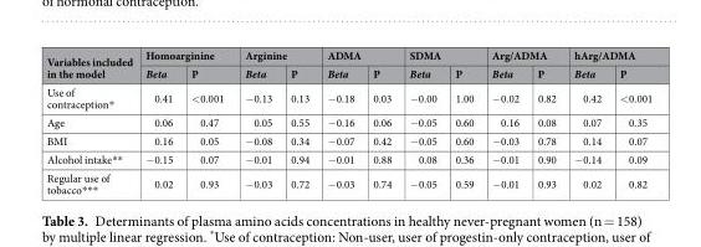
<table><thead><tr><td rowspan="2">Variables included in the model</td><td colspan="2">Homoarginine</td><td colspan="2">Arginine</td><td colspan="2">ADMA</td><td colspan="2">SDMA</td><td colspan="2">Arg/ADMA</td><td colspan="2">hArg/ADMA</td></tr><tr><td>Beta</td><td>P</td><td>Beta</td><td>P</td><td>Beta</td><td>P</td><td>Beta</td><td>P</td><td>Beta</td><td>P</td><td>Beta</td><td>P</td></tr></thead><tbody><tr><td>Use of contraception*</td><td>0.41</td><td>&lt;0.001</td><td>−0.13</td><td>0.13</td><td>−0.18</td><td>0.03</td><td>−0.00</td><td>1.00</td><td>−0.02</td><td>0.82</td><td>0.42</td><td>&lt;0.001</td></tr><tr><td>Age</td><td>0.06</td><td>0.47</td><td>0.05</td><td>0.55</td><td>−0.16</td><td>0.06</td><td>−0.05</td><td>0.60</td><td>0.16</td><td>0.08</td><td>0.07</td><td>0.35</td></tr><tr><td>BMI</td><td>0.16</td><td>0.05</td><td>−0.08</td><td>0.34</td><td>−0.07</td><td>0.42</td><td>−0.05</td><td>0.60</td><td>−0.03</td><td>0.78</td><td>0.14</td><td>0.07</td></tr><tr><td>Alcohol intake**</td><td>−0.15</td><td>0.07</td><td>−0.01</td><td>0.94</td><td>−0.01</td><td>0.88</td><td>0.08</td><td>0.36</td><td>−0.01</td><td>0.90</td><td>−0.14</td><td>0.09</td></tr><tr><td>Regular use of tobacco***</td><td>0.02</td><td>0.93</td><td>−0.03</td><td>0.72</td><td>−0.03</td><td>0.74</td><td>−0.05</td><td>0.59</td><td>−0.01</td><td>0.93</td><td>0.02</td><td>0.82</td></tr></tbody></table>